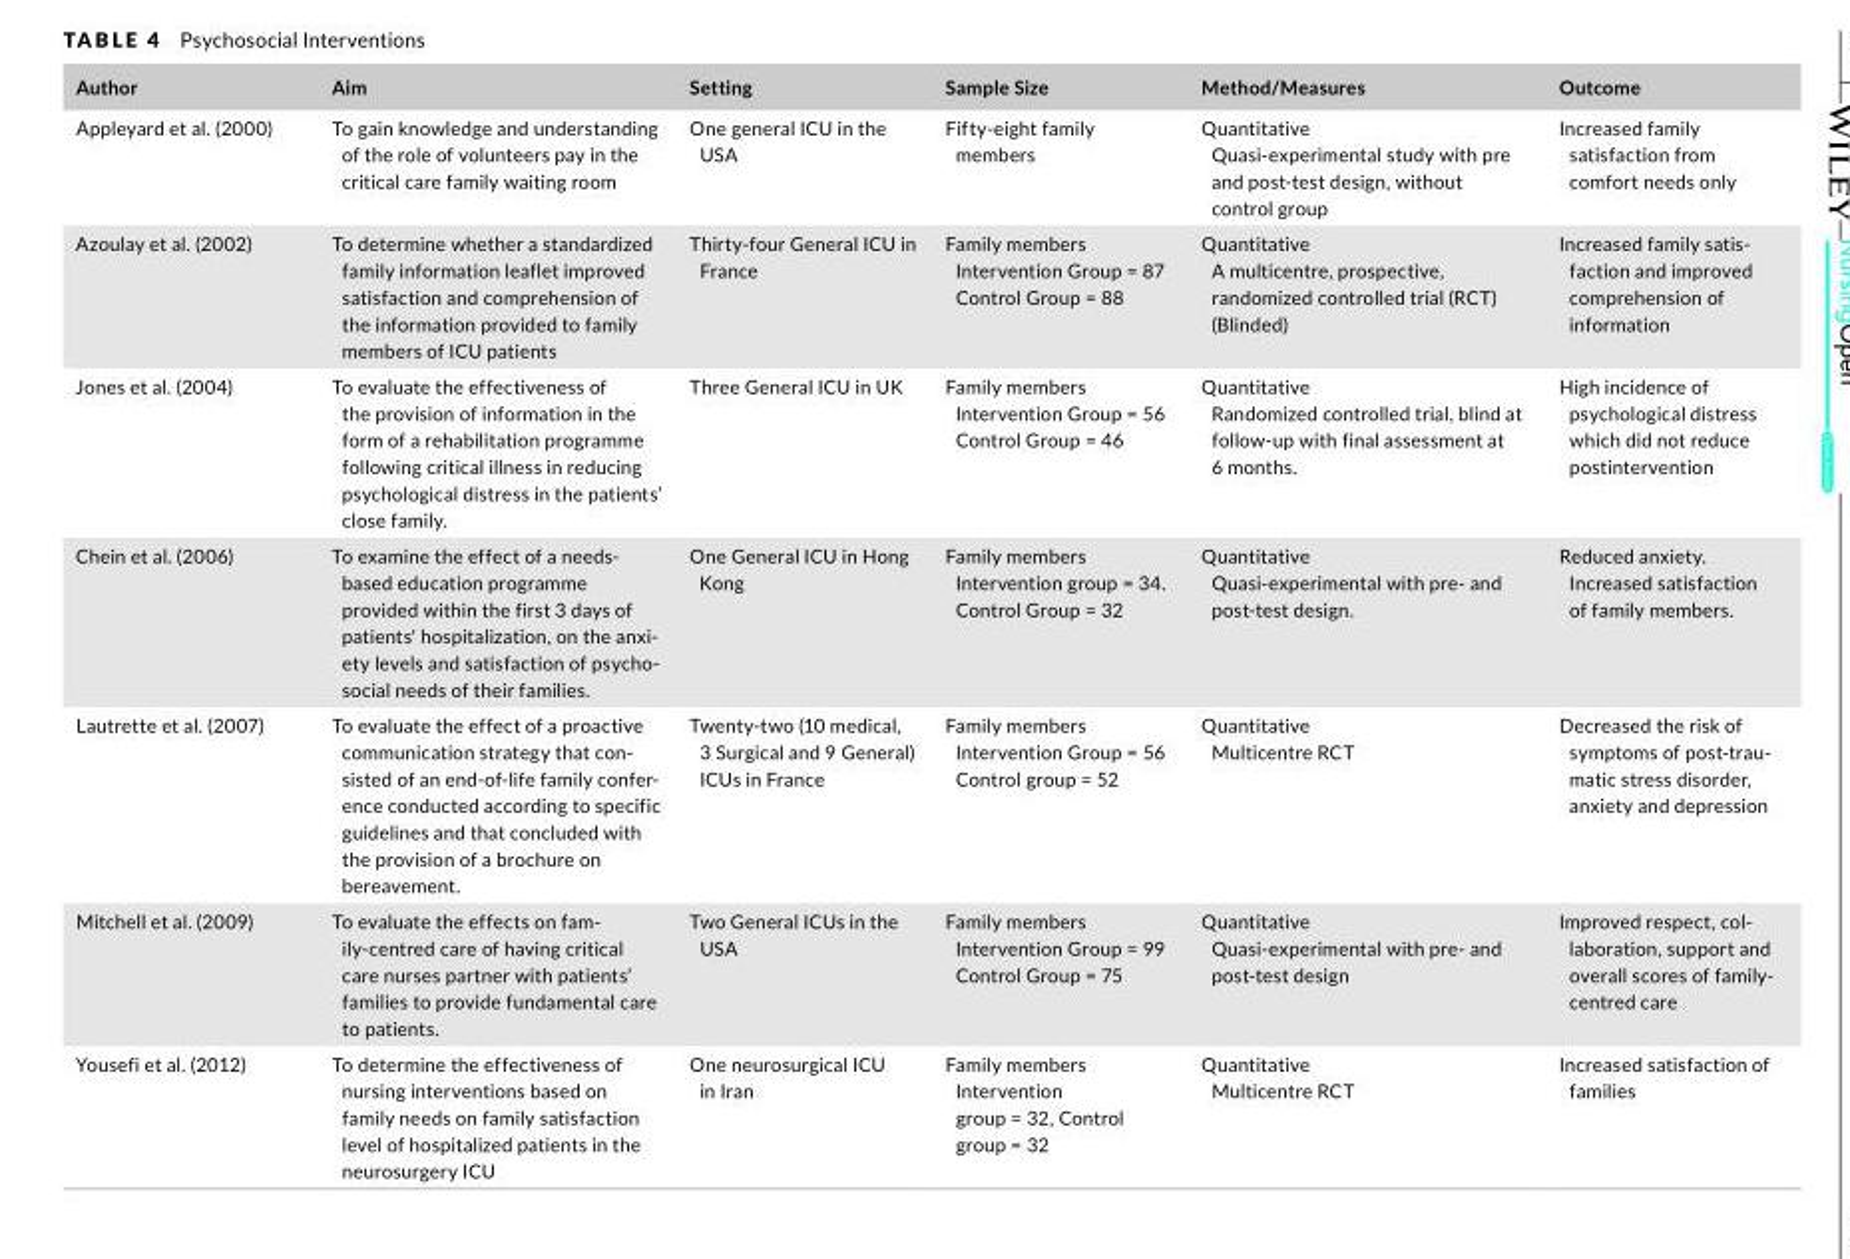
<table><thead><tr><td>Author</td><td>Aim</td><td>Setting</td><td>Sample Size</td><td>Method/Measures</td><td>Outcome</td></tr></thead><tbody><tr><td>Appleyard et al. (2000)</td><td>To gain knowledge and understanding of the role of volunteers pay in the critical care family waiting room</td><td>One general ICU in the USA</td><td>Fifty‐eight family members</td><td>Quantitative Quasi‐experimental study with pre and post‐test design, without control group</td><td>Increased family satisfaction from comfort needs only</td></tr><tr><td>Azoulay et al. (2002)</td><td>To determine whether a standardized family information leaflet improved satisfaction and comprehension of the information provided to family members of ICU patients</td><td>Thirty‐four General ICU in France</td><td>Family members Intervention Group = 87 Control Group = 88</td><td>Quantitative A multicentre, prospective, randomized controlled trial (RCT) (Blinded)</td><td>Increased family satis‐ faction and improved comprehension of information</td></tr><tr><td>Jones et al. (2004)</td><td>To evaluate the effectiveness of the provision of information in the form of a rehabilitation programme following critical illness in reducing psychological distress in the patients’ close family.</td><td>Three General ICU in UK</td><td>Family members Intervention Group = 56 Control Group = 46</td><td>Quantitative Randomized controlled trial, blind at follow‐up with final assessment at 6 months.</td><td>High incidence of psychological distress which did not reduce postintervention</td></tr><tr><td>Chein et al. (2006)</td><td>To examine the effect of a needs‐ based education programme provided within the first 3 days of patients&#x27; hospitalization, on the anxi‐ ety levels and satisfaction of psycho‐ social needs of their families.</td><td>One General ICU in Hong Kong</td><td>Family members Intervention group = 34. Control Group = 32</td><td>Quantitative Quasi‐experimental with pre‐ and post‐test design.</td><td>Reduced anxiety. Increased satisfaction of family members.</td></tr><tr><td>Lautrette et al. (2007)</td><td>To evaluate the effect of a proactive communication strategy that con‐ sisted of an end‐of‐life family confer‐ ence conducted according to specific guidelines and that concluded with the provision of a brochure on bereavement.</td><td>Twenty‐two (10 medical, 3 Surgical and 9 General) ICUs in France</td><td>Family members Intervention Group = 56 Control group = 52</td><td>Quantitative Multicentre RCT</td><td>Decreased the risk of symptoms of post‐trau‐ matic stress disorder, anxiety and depression</td></tr><tr><td>Mitchell et al. (2009)</td><td>To evaluate the effects on fam‐ ily‐centred care of having critical care nurses partner with patients’ families to provide fundamental care to patients.</td><td>Two General ICUs in the USA</td><td>Family members Intervention Group = 99 Control Group = 75</td><td>Quantitative Quasi‐experimental with pre‐ and post‐test design</td><td>Improved respect, col‐ laboration, support and overall scores of family‐ centred care</td></tr><tr><td>Yousefi et al. (2012)</td><td>To determine the effectiveness of nursing interventions based on family needs on family satisfaction level of hospitalized patients in the neurosurgery ICU</td><td>One neurosurgical ICU in Iran</td><td>Family members Intervention group = 32, Control group = 32</td><td>Quantitative Multicentre RCT</td><td>Increased satisfaction of families</td></tr></tbody></table>